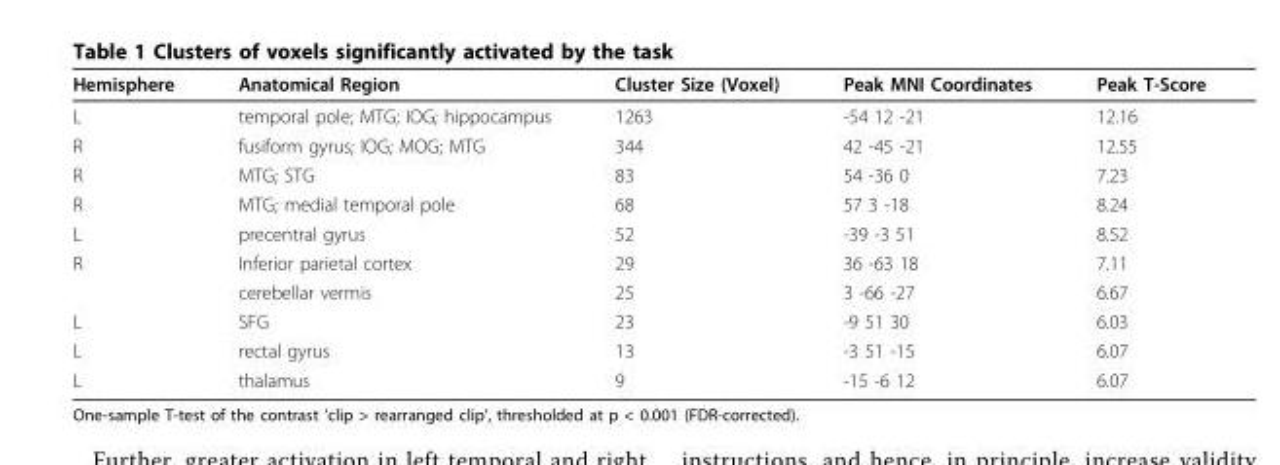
<table><thead><tr><td>Hemisphere</td><td>Anatomical Region</td><td>Cluster Size (Voxel)</td><td>Peak MNI Coordinates</td><td>Peak T-Score</td></tr></thead><tbody><tr><td>L</td><td>temporal pole; MTG; IOG; hippocampus</td><td>1263</td><td>-54 12 -21</td><td>12.16</td></tr><tr><td>R</td><td>fusiform gyrus; IOG; MOG; MTG</td><td>344</td><td>42 -45 -21</td><td>12.55</td></tr><tr><td>R</td><td>MTG; STG</td><td>83</td><td>54 -36 0</td><td>7.23</td></tr><tr><td>R</td><td>MTG; medial temporal pole</td><td>68</td><td>57 3 -18</td><td>8.24</td></tr><tr><td>L</td><td>precentral gyrus</td><td>52</td><td>-39 -3 51</td><td>8.52</td></tr><tr><td rowspan="2">R</td><td>Inferior parietal cortex</td><td>29</td><td>36 -63 18</td><td>7.11</td></tr><tr><td>cerebellar vermis</td><td>25</td><td>3 -66 -27</td><td>6.67</td></tr><tr><td>L</td><td>SFG</td><td>23</td><td>-9 51 30</td><td>6.03</td></tr><tr><td>L</td><td>rectal gyrus</td><td>13</td><td>-3 51 -15</td><td>6.07</td></tr><tr><td>L</td><td>thalamus</td><td>9</td><td>-15 -6 12</td><td>6.07</td></tr></tbody></table>